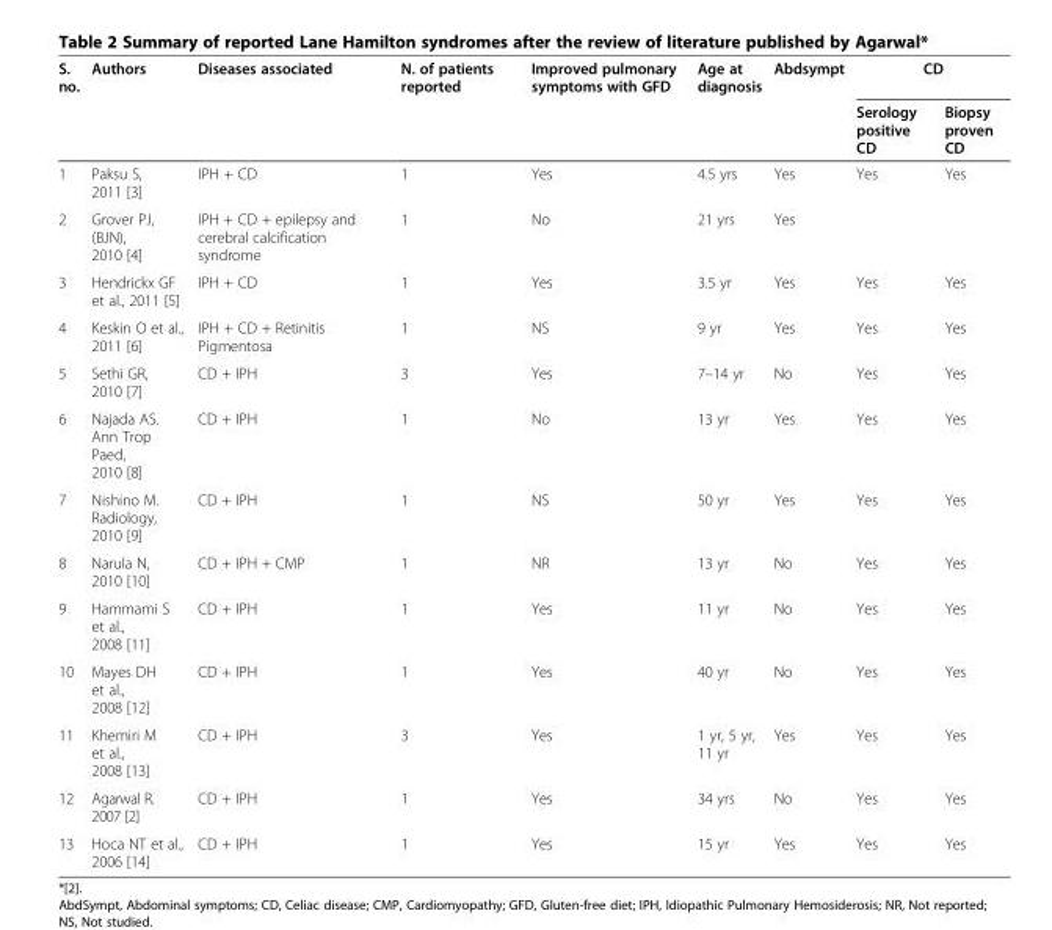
<table><thead><tr><td rowspan="2">S. no.</td><td rowspan="2">Authors</td><td rowspan="2">Diseases associated</td><td rowspan="2">N. of patients reported</td><td rowspan="2">Improved pulmonary symptoms with GFD</td><td rowspan="2">Age at diagnosis</td><td rowspan="2">Abdsympt</td><td colspan="2">CD</td></tr><tr><td>Serology positive CD</td><td>Biopsy proven CD</td></tr></thead><tbody><tr><td>1</td><td>Paksu S, 2011 [3]</td><td>IPH + CD</td><td>1</td><td>Yes</td><td>4.5 yrs</td><td>Yes</td><td>Yes</td><td>Yes</td></tr><tr><td>2</td><td>Grover PJ, (BJN), 2010 [4]</td><td>IPH + CD + epilepsy and cerebral calcification syndrome</td><td>1</td><td>No</td><td>21 yrs</td><td>Yes</td><td></td><td></td></tr><tr><td>3</td><td>Hendrickx GF et al., 2011 [5]</td><td>IPH + CD</td><td>1</td><td>Yes</td><td>3.5 yr</td><td>Yes</td><td>Yes</td><td>Yes</td></tr><tr><td>4</td><td>Keskin O et al., 2011 [6]</td><td>IPH + CD + Retinitis Pigmentosa</td><td>1</td><td>NS</td><td>9 yr</td><td>Yes</td><td>Yes</td><td>Yes</td></tr><tr><td>5</td><td>Sethi GR, 2010 [7]</td><td>CD + IPH</td><td>3</td><td>Yes</td><td>7–14 yr</td><td>No</td><td>Yes</td><td>Yes</td></tr><tr><td>6</td><td>Najada AS. Ann Trop Paed, 2010 [8]</td><td>CD + IPH</td><td>1</td><td>No</td><td>13 yr</td><td>Yes</td><td>Yes</td><td>Yes</td></tr><tr><td>7</td><td>Nishino M. Radiology, 2010 [9]</td><td>CD + IPH</td><td>1</td><td>NS</td><td>50 yr</td><td>Yes</td><td>Yes</td><td>Yes</td></tr><tr><td>8</td><td>Narula N, 2010 [10]</td><td>CD + IPH + CMP</td><td>1</td><td>NR</td><td>13 yr</td><td>No</td><td>Yes</td><td>Yes</td></tr><tr><td>9</td><td>Hammami S et al., 2008 [11]</td><td>CD + IPH</td><td>1</td><td>Yes</td><td>11 yr</td><td>No</td><td>Yes</td><td>Yes</td></tr><tr><td>10</td><td>Mayes DH et al., 2008 [12]</td><td>CD + IPH</td><td>1</td><td>Yes</td><td>40 yr</td><td>No</td><td>Yes</td><td>Yes</td></tr><tr><td>11</td><td>Khemiri M et al., 2008 [13]</td><td>CD + IPH</td><td>3</td><td>Yes</td><td>1 yr, 5 yr, 11 yr</td><td>Yes</td><td>Yes</td><td>Yes</td></tr><tr><td>12</td><td>Agarwal R. 2007 [2]</td><td>CD + IPH</td><td>1</td><td>Yes</td><td>34 yrs</td><td>No</td><td>Yes</td><td>Yes</td></tr><tr><td>13</td><td>Hoca NT et al., 2006 [14]</td><td>CD + IPH</td><td>1</td><td>Yes</td><td>15 yr</td><td>Yes</td><td>Yes</td><td>Yes</td></tr></tbody></table>